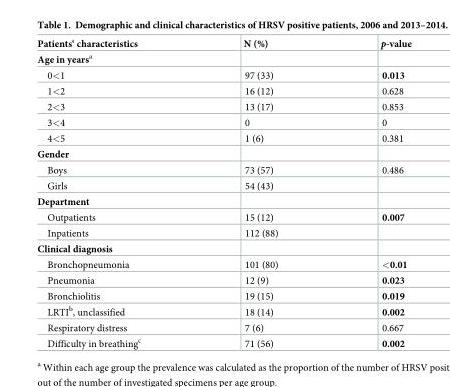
<table><thead><tr><td>Patients‘ characteristics</td><td>N (%)</td><td>p-value</td></tr></thead><tbody><tr><td colspan="3">Age in years<sup>a</sup></td></tr><tr><td>0&lt;1</td><td>97 (33)</td><td>0.013</td></tr><tr><td>1&lt;2</td><td>16 (12)</td><td>0.628</td></tr><tr><td>2&lt;3</td><td>13 (17)</td><td>0.853</td></tr><tr><td>3&lt;4</td><td>0</td><td>0</td></tr><tr><td>4&lt;5</td><td>1 (6)</td><td>0.381</td></tr><tr><td colspan="3">Gender</td></tr><tr><td>Boys</td><td>73 (57)</td><td>0.486</td></tr><tr><td>Girls</td><td>54 (43)</td><td></td></tr><tr><td colspan="3">Department</td></tr><tr><td>Outpatients</td><td>15 (12)</td><td>0.007</td></tr><tr><td>Inpatients</td><td>112 (88)</td><td></td></tr><tr><td colspan="3">Clinical diagnosis</td></tr><tr><td>Bronchopneumonia</td><td>101 (80)</td><td>&lt;0.01</td></tr><tr><td>Pneumonia</td><td>12 (9)</td><td>0.023</td></tr><tr><td>Bronchiolitis</td><td>19 (15)</td><td>0.019</td></tr><tr><td>LRTI<sup>b</sup>, unclassified</td><td>18 (14)</td><td>0.002</td></tr><tr><td>Respiratory distress</td><td>7 (6)</td><td>0.667</td></tr><tr><td>Difficulty in breathing<sup>c</sup></td><td>71 (56)</td><td>0.002</td></tr></tbody></table>